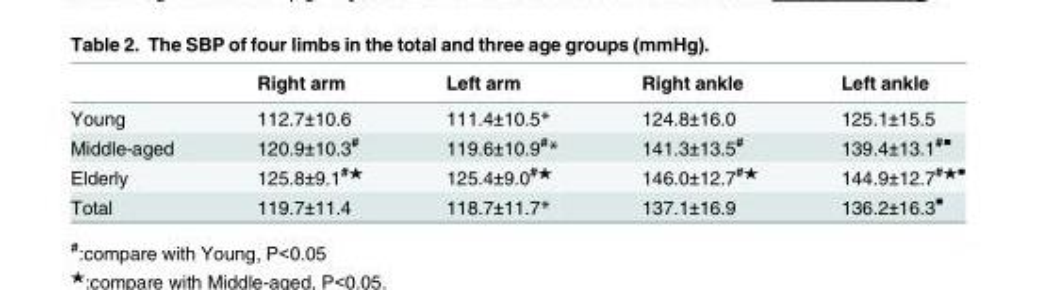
<table><thead><tr><td></td><td>Right arm</td><td>Left arm</td><td>Right ankle</td><td>Left ankle</td></tr></thead><tbody><tr><td>Young</td><td>112.7±10.6</td><td>111.4±10.5*</td><td>124.8±16.0</td><td>125.1±15.5</td></tr><tr><td>Middle-aged</td><td>120.9±10.3<sup>#</sup></td><td>119.6±10.9<sup>#</sup>*</td><td>141.3±13.5<sup>#</sup></td><td>139.4±13.1<sup>#■</sup></td></tr><tr><td>Elderly</td><td>125.8±9.1<sup>#★</sup></td><td>125.4±9.0<sup>#★</sup></td><td>146.0±12.7<sup>#★</sup></td><td>144.9±12.7<sup>#★■</sup></td></tr><tr><td>Total</td><td>119.7±11.4</td><td>118.7±11.7*</td><td>137.1±16.9</td><td>136.2±16.3<sup>■</sup></td></tr></tbody></table>